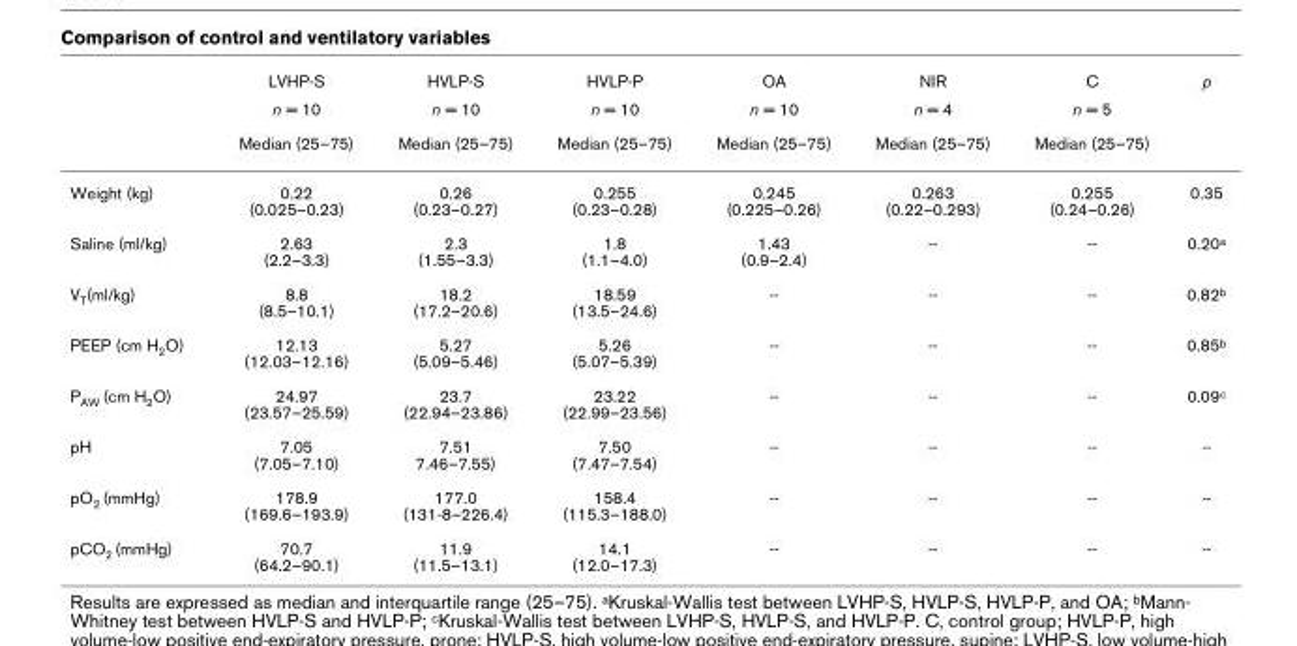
<table><thead><tr><td rowspan="3"></td><td rowspan="3">LVHP-S n = 10 Median (25–75)</td><td rowspan="3">HVLP-S n = 10 Median (25–75)</td><td rowspan="3">HVLP-P n = 10 Median (25–75)</td><td rowspan="3">OA n = 10 Median (25–75)</td><td rowspan="3">NIR n = 4 Median (25–75)</td><td rowspan="3">C n = 5 Median (25–75)</td><td rowspan="3">p</td></tr><tr></tr><tr></tr></thead><tbody><tr><td>Weight (kg)</td><td>0.22 (0.025–0.23)</td><td>0.26 (0.23–0.27)</td><td>0.255 (0.23–0.28)</td><td>0.245 (0.225–0.26)</td><td>0.263 (0.22–0.293)</td><td>0.255 (0.24–0.26)</td><td>0.35</td></tr><tr><td>Saline (ml/kg)</td><td>2.63 (2.2–3.3)</td><td>2.3 (1.55–3.3)</td><td>1.8 (1.1–4.0)</td><td>1.43 (0.9–2.4)</td><td>--</td><td>--</td><td>0.20<sup>a</sup></td></tr><tr><td>V<sub>T</sub>(ml/kg)</td><td>8.8 (8.5–10.1)</td><td>18.2 (17.2–20.6)</td><td>18.59 (13.5–24.6)</td><td>--</td><td>--</td><td>--</td><td>0.82<sup>b</sup></td></tr><tr><td>PEEP (cm H<sub>2</sub>O)</td><td>12.13 (12.03–12.16)</td><td>5.27 (5.09–5.46)</td><td>5.26 (5.07–5.39)</td><td>--</td><td>--</td><td>--</td><td>0.85<sup>b</sup></td></tr><tr><td>P<sub>AW</sub> (cm H<sub>2</sub>O)</td><td>24.97 (23.57–25.59)</td><td>23.7 (22.94–23.86)</td><td>23.22 (22.99–23.56)</td><td>--</td><td>--</td><td>--</td><td>0.09<sup>c</sup></td></tr><tr><td>pH</td><td>7.05 (7.05–7.10)</td><td>7.51 7.46–7.55)</td><td>7.50 (7.47–7.54)</td><td>--</td><td>--</td><td>--</td><td>--</td></tr><tr><td>pO<sub>2</sub> (mmHg)</td><td>178.9 (169.6–193.9)</td><td>177.0 (131-8–226.4)</td><td>158.4 (115.3–188.0)</td><td>--</td><td>--</td><td>--</td><td>--</td></tr><tr><td>pCO<sub>2</sub> (mmHg)</td><td>70.7 (64.2–90.1)</td><td>11.9 (11.5–13.1)</td><td>14.1 (12.0–17.3)</td><td>--</td><td>--</td><td>--</td><td>--</td></tr></tbody></table>